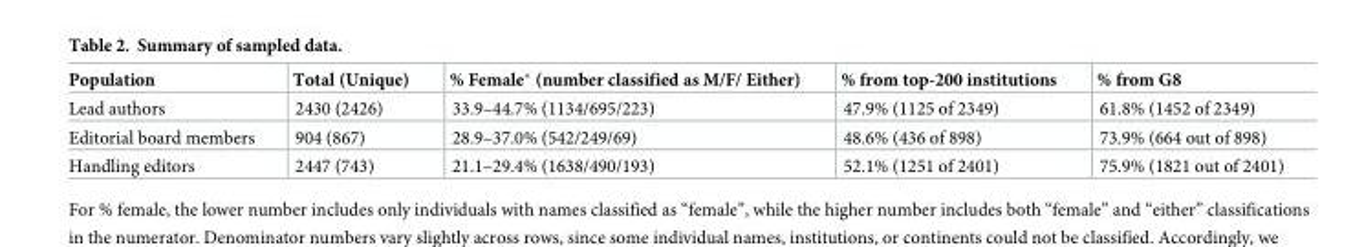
<table><thead><tr><td>Population</td><td>Total (Unique)</td><td>% Female* (number classified as M/F/ Either)</td><td>% from top-200 institutions</td><td>% from G8</td></tr></thead><tbody><tr><td>Lead authors</td><td>2430 (2426)</td><td>33.9–44.7% (1134/695/223)</td><td>47.9% (1125 of 2349)</td><td>61.8% (1452 of 2349)</td></tr><tr><td>Editorial board members</td><td>904 (867)</td><td>28.9–37.0% (542/249/69)</td><td>48.6% (436 of 898)</td><td>73.9% (664 out of 898)</td></tr><tr><td>Handling editors</td><td>2447 (743)</td><td>21.1–29.4% (1638/490/193)</td><td>52.1% (1251 of 2401)</td><td>75.9% (1821 out of 2401)</td></tr></tbody></table>